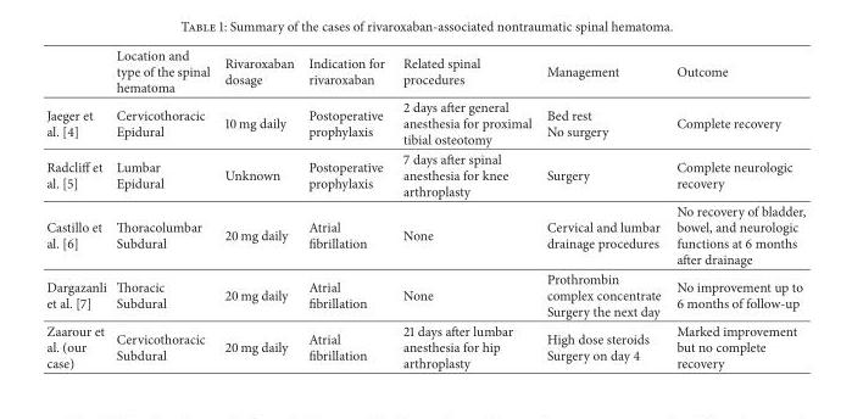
<table><thead><tr><td></td><td>Location and type of the spinal hematoma</td><td>Rivaroxaban dosage</td><td>Indication for rivaroxaban</td><td>Related spinal procedures</td><td>Management</td><td>Outcome</td></tr></thead><tbody><tr><td>Jaeger et al. [4]</td><td>Cervicothoracic Epidural</td><td>10 mg daily</td><td>Postoperative prophylaxis</td><td>2 days after general anesthesia for proximal tibial osteotomy</td><td>Bed rest No surgery</td><td>Complete recovery</td></tr><tr><td>Radcliff et al. [5]</td><td>Lumbar Epidural</td><td>Unknown</td><td>Postoperative prophylaxis</td><td>7 days after spinal anesthesia for knee arthroplasty</td><td>Surgery</td><td>Complete neurologic recovery</td></tr><tr><td>Castillo et al. [6]</td><td>Thoracolumbar Subdural</td><td>20 mg daily</td><td>Atrial fibrillation</td><td>None</td><td>Cervical and lumbar drainage procedures</td><td>No recovery of bladder, bowel, and neurologic functions at 6 months after drainage</td></tr><tr><td>Dargazanli et al. [7]</td><td>Thoracic Subdural</td><td>20 mg daily</td><td>Atrial fibrillation</td><td>None</td><td>Prothrombin complex concentrate Surgery the next day</td><td>No improvement up to 6 months of follow-up</td></tr><tr><td>Zaarour et al. (our case)</td><td>Cervicothoracic Subdural</td><td>20 mg daily</td><td>Atrial fibrillation</td><td>21 days after lumbar anesthesia for hip arthroplasty</td><td>High dose steroids Surgery on day 4</td><td>Marked improvement but no complete recovery</td></tr></tbody></table>